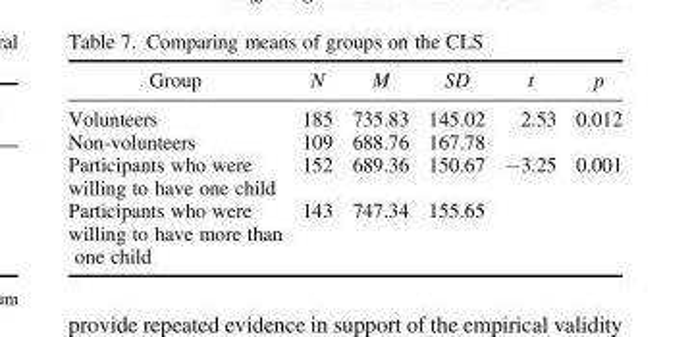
<table><thead><tr><td>Group</td><td>N</td><td>M</td><td>SD</td><td>t</td><td>p</td></tr></thead><tbody><tr><td>Volunteers</td><td>185</td><td>735.83</td><td>145.02</td><td>2.53</td><td>0.012</td></tr><tr><td>Non-volunteers</td><td>109</td><td>688.76</td><td>167.78</td><td></td><td></td></tr><tr><td>Participants who were willing to have one child</td><td>152</td><td>689.36</td><td>150.67</td><td>−3.25</td><td>0.001</td></tr><tr><td>Participants who were willing to have more than one child</td><td>143</td><td>747.34</td><td>155.65</td><td></td><td></td></tr></tbody></table>